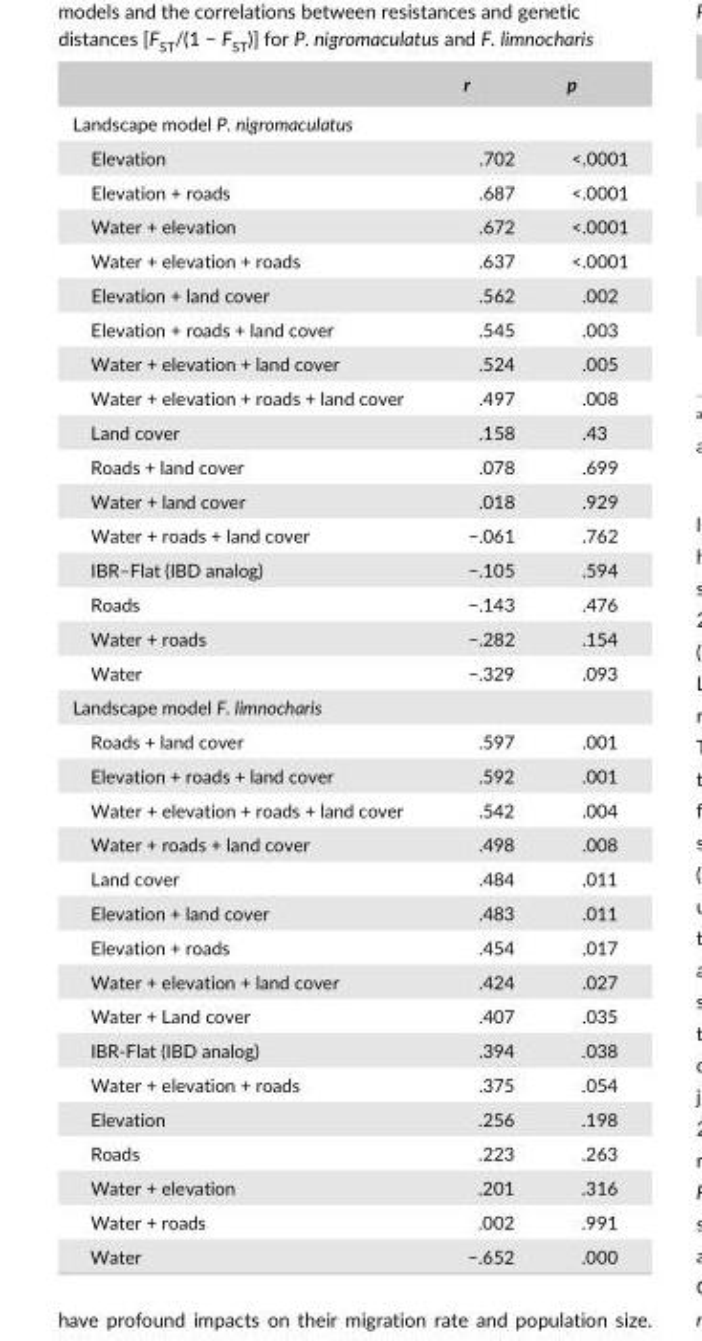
<table><thead><tr><td></td><td>r</td><td>p</td></tr></thead><tbody><tr><td colspan="3">Landscape model P. nigromaculatus</td></tr><tr><td>Elevation</td><td>.702</td><td>&lt;.0001</td></tr><tr><td>Elevation + roads</td><td>.687</td><td>&lt;.0001</td></tr><tr><td>Water + elevation</td><td>.672</td><td>&lt;.0001</td></tr><tr><td>Water + elevation + roads</td><td>.637</td><td>&lt;.0001</td></tr><tr><td>Elevation + land cover</td><td>.562</td><td>.002</td></tr><tr><td>Elevation + roads + land cover</td><td>.545</td><td>.003</td></tr><tr><td>Water + elevation + land cover</td><td>.524</td><td>.005</td></tr><tr><td>Water + elevation + roads + land cover</td><td>.497</td><td>.008</td></tr><tr><td>Land cover</td><td>.158</td><td>.43</td></tr><tr><td>Roads + land cover</td><td>.078</td><td>.699</td></tr><tr><td>Water + land cover</td><td>.018</td><td>.929</td></tr><tr><td>Water + roads + land cover</td><td>−.061</td><td>.762</td></tr><tr><td>IBR–Flat (IBD analog)</td><td>−.105</td><td>.594</td></tr><tr><td>Roads</td><td>−.143</td><td>.476</td></tr><tr><td>Water + roads</td><td>−.282</td><td>.154</td></tr><tr><td>Water</td><td>−.329</td><td>.093</td></tr><tr><td colspan="3">Landscape model F. limnocharis</td></tr><tr><td>Roads + land cover</td><td>.597</td><td>.001</td></tr><tr><td>Elevation + roads + land cover</td><td>.592</td><td>.001</td></tr><tr><td>Water + elevation + roads + land cover</td><td>.542</td><td>.004</td></tr><tr><td>Water + roads + land cover</td><td>.498</td><td>.008</td></tr><tr><td>Land cover</td><td>.484</td><td>.011</td></tr><tr><td>Elevation + land cover</td><td>.483</td><td>.011</td></tr><tr><td>Elevation + roads</td><td>.454</td><td>.017</td></tr><tr><td>Water + elevation + land cover</td><td>.424</td><td>.027</td></tr><tr><td>Water + Land cover</td><td>.407</td><td>.035</td></tr><tr><td>IBR- Flat (IBD analog)</td><td>.394</td><td>.038</td></tr><tr><td>Water + elevation + roads</td><td>.375</td><td>.054</td></tr><tr><td>Elevation</td><td>.256</td><td>.198</td></tr><tr><td>Roads</td><td>.223</td><td>.263</td></tr><tr><td>Water + elevation</td><td>.201</td><td>.316</td></tr><tr><td>Water + roads</td><td>.002</td><td>.991</td></tr><tr><td>Water</td><td>−.652</td><td>.000</td></tr></tbody></table>